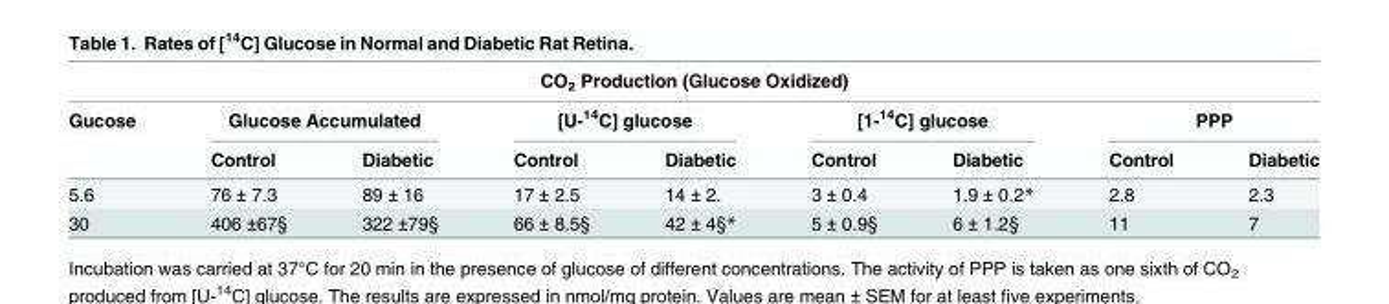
<table><thead><tr><td colspan="9">CO<sub>2</sub> Production (Glucose Oxidized)</td></tr><tr><td rowspan="2">Gucose</td><td colspan="2">Glucose Accumulated</td><td colspan="2">[U-<sup>14</sup>C] glucose</td><td colspan="2">[1-<sup>14</sup>C] glucose</td><td colspan="2">PPP</td></tr><tr><td>Control</td><td>Diabetic</td><td>Control</td><td>Diabetic</td><td>Control</td><td>Diabetic</td><td>Control</td><td>Diabetic</td></tr></thead><tbody><tr><td>5.6</td><td>76 ± 7.3</td><td>89 ± 16</td><td>17 ± 2.5</td><td>14 ± 2.</td><td>3 ± 0.4</td><td>1.9 ± 0.2*</td><td>2.8</td><td>2.3</td></tr><tr><td>30</td><td>406 ±67§</td><td>322 ±79§</td><td>66 ± 8.5§</td><td>42 ± 4§*</td><td>5 ± 0.9§</td><td>6 ± 1.2§</td><td>11</td><td>7</td></tr></tbody></table>